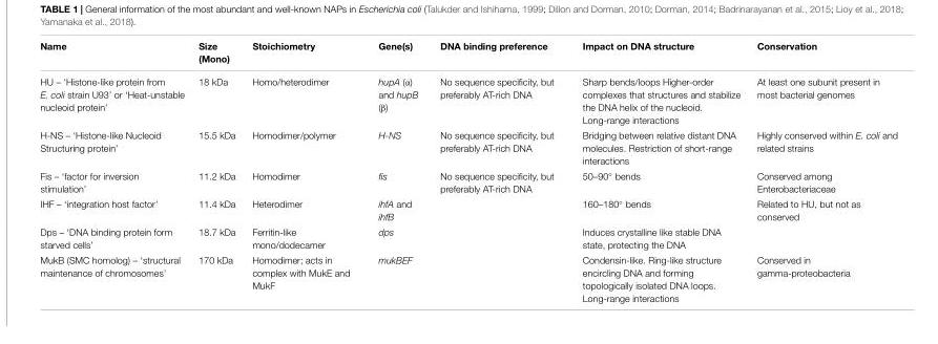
<table><thead><tr><td>Name</td><td>Size (Mono)</td><td>Stoichiometry</td><td>Gene(s)</td><td>DNA binding preference</td><td>Impact on DNA structure</td><td>Conservation</td></tr></thead><tbody><tr><td>HU – ‘Histone-like protein from E. coli strain U93’ or ‘Heat-unstable nucleoid protein’</td><td>18 kDa</td><td>Homo/heterodimer</td><td>hupA (α) and hupB (β)</td><td>No sequence specificity, but preferably AT-rich DNA</td><td>Sharp bends/loops Higher-order complexes that structures and stabilize the DNA helix of the nucleoid. Long-range interactions</td><td>At least one subunit present in most bacterial genomes</td></tr><tr><td>H-NS – ‘Histone-like Nucleoid Structuring protein’</td><td>15.5 kDa</td><td>Homodimer/polymer</td><td>H-NS</td><td>No sequence specificity, but preferably AT-rich DNA</td><td>Bridging between relative distant DNA molecules. Restriction of short-range interactions</td><td>Highly conserved within E. coli and related strains</td></tr><tr><td>Fis – ‘factor for inversion stimulation’</td><td>11.2 kDa</td><td>Homodimer</td><td>fis</td><td>No sequence specificity, but preferably AT-rich DNA</td><td>50–90◦ bends</td><td>Conserved among Enterobacteriaceae</td></tr><tr><td>IHF – ‘integration host factor’</td><td>11.4 kDa</td><td>Heterodimer</td><td>ihfA and ihfB</td><td></td><td>160–180◦ bends</td><td>Related to HU, but not as conserved</td></tr><tr><td>Dps – ‘DNA binding protein form starved cells’</td><td>18.7 kDa</td><td>Ferritin-like mono/dodecamer</td><td>dps</td><td></td><td>Induces crystalline like stable DNA state, protecting the DNA</td><td></td></tr><tr><td>MukB (SMC homolog) – ‘structural maintenance of chromosomes’</td><td>170 kDa</td><td>Homodimer; acts in complex with MukE and MukF</td><td>mukBEF</td><td></td><td>Condensin-like. Ring-like structure encircling DNA and forming topologically isolated DNA loops. Long-range interactions</td><td>Conserved in gamma-proteobacteria</td></tr></tbody></table>